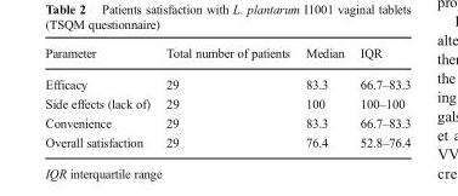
<table><thead><tr><td>Parameter</td><td>Total number of patients</td><td>Median</td><td>IQR</td></tr></thead><tbody><tr><td>Efficacy</td><td>29</td><td>83.3</td><td>66.7–83.3</td></tr><tr><td>Side effects (lack of)</td><td>29</td><td>100</td><td>100–100</td></tr><tr><td>Convenience</td><td>29</td><td>83.3</td><td>66.7–83.3</td></tr><tr><td>Overall satisfaction</td><td>29</td><td>76.4</td><td>52.8–76.4</td></tr></tbody></table>